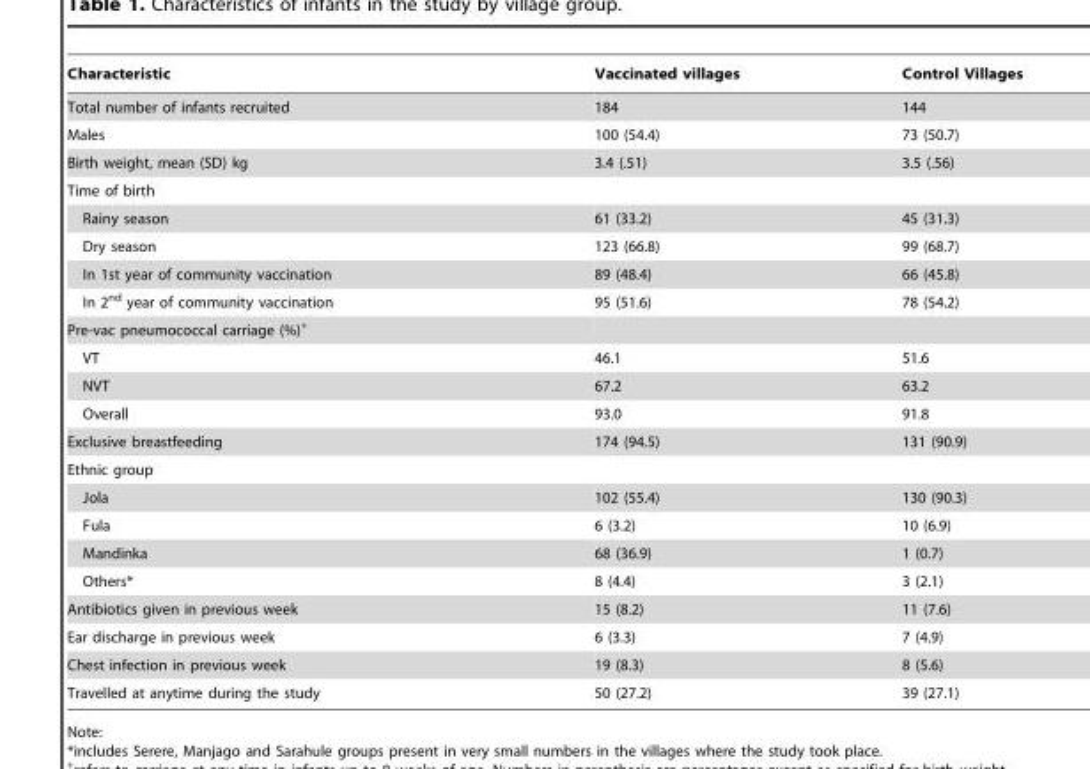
<table><thead><tr><td>Characteristic</td><td>Vaccinated villages</td><td>Control Villages</td></tr></thead><tbody><tr><td>Total number of infants recruited</td><td>184</td><td>144</td></tr><tr><td>Males</td><td>100 (54.4)</td><td>73 (50.7)</td></tr><tr><td>Birth weight, mean (SD) kg</td><td>3.4 (.51)</td><td>3.5 (.56)</td></tr><tr><td colspan="3">Time of birth</td></tr><tr><td>Rainy season</td><td>61 (33.2)</td><td>45 (31.3)</td></tr><tr><td>Dry season</td><td>123 (66.8)</td><td>99 (68.7)</td></tr><tr><td>In 1st year of community vaccination</td><td>89 (48.4)</td><td>66 (45.8)</td></tr><tr><td>In 2<sup>nd</sup> year of community vaccination</td><td>95 (51.6)</td><td>78 (54.2)</td></tr><tr><td colspan="3">Pre-vac pneumococcal carriage (%)+</td></tr><tr><td>VT</td><td>46.1</td><td>51.6</td></tr><tr><td>NVT</td><td>67.2</td><td>63.2</td></tr><tr><td>Overall</td><td>93.0</td><td>91.8</td></tr><tr><td>Exclusive breastfeeding</td><td>174 (94.5)</td><td>131 (90.9)</td></tr><tr><td colspan="3">Ethnic group</td></tr><tr><td>Jola</td><td>102 (55.4)</td><td>130 (90.3)</td></tr><tr><td>Fula</td><td>6 (3.2)</td><td>10 (6.9)</td></tr><tr><td>Mandinka</td><td>68 (36.9)</td><td>1 (0.7)</td></tr><tr><td>Others*</td><td>8 (4.4)</td><td>3 (2.1)</td></tr><tr><td>Antibiotics given in previous week</td><td>15 (8.2)</td><td>11 (7.6)</td></tr><tr><td>Ear discharge in previous week</td><td>6 (3.3)</td><td>7 (4.9)</td></tr><tr><td>Chest infection in previous week</td><td>19 (8.3)</td><td>8 (5.6)</td></tr><tr><td>Travelled at anytime during the study</td><td>50 (27.2)</td><td>39 (27.1)</td></tr></tbody></table>